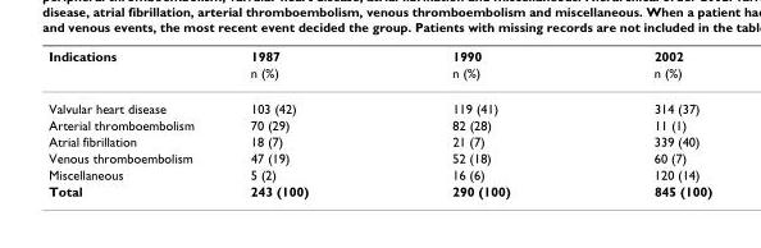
<table><thead><tr><td rowspan="2">Indications</td><td rowspan="2">1987 n (%)</td><td rowspan="2">1990 n (%)</td><td rowspan="2">2002 n (%)</td></tr><tr></tr></thead><tbody><tr><td>Valvular heart disease</td><td>103 (42)</td><td>119 (41)</td><td>314 (37)</td></tr><tr><td>Arterial thromboembolism</td><td>70 (29)</td><td>82 (28)</td><td>11 (1)</td></tr><tr><td>Atrial fibrillation</td><td>18 (7)</td><td>21 (7)</td><td>339 (40)</td></tr><tr><td>Venous thromboembolism</td><td>47 (19)</td><td>52 (18)</td><td>60 (7)</td></tr><tr><td>Miscellaneous</td><td>5 (2)</td><td>16 (6)</td><td>120 (14)</td></tr><tr><td>Total</td><td>243 (100)</td><td>290 (100)</td><td>845 (100)</td></tr></tbody></table>